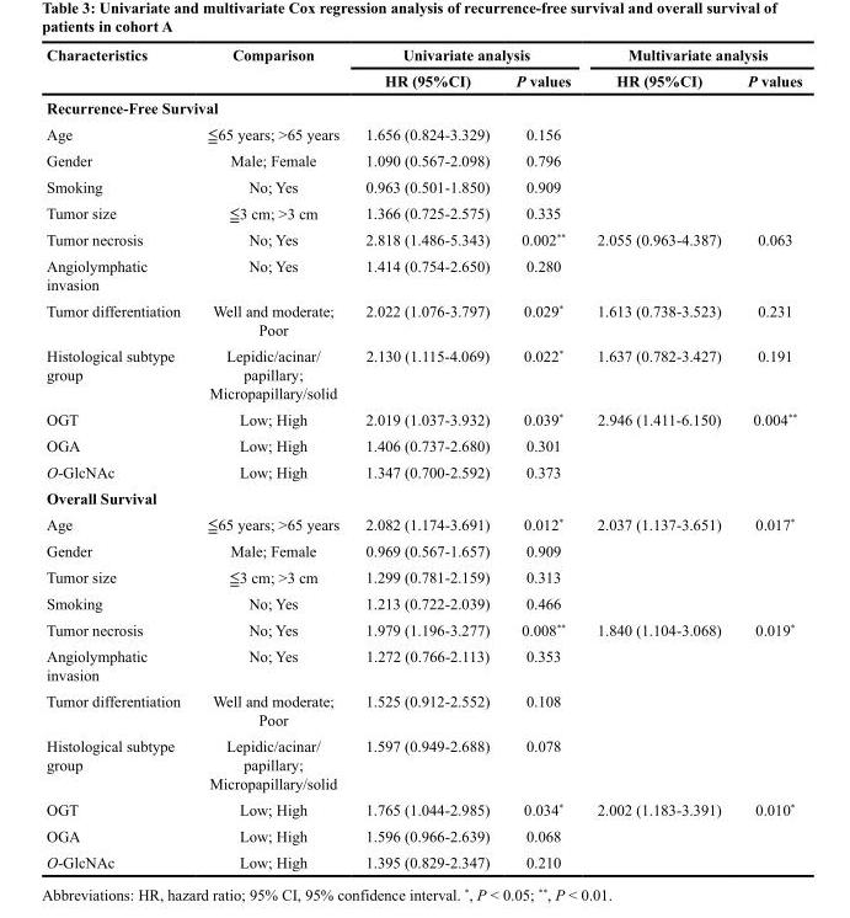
<table><thead><tr><td rowspan="2">Characteristics</td><td rowspan="2">Comparison</td><td colspan="2">Univariate analysis</td><td colspan="2">Multivariate analysis</td></tr><tr><td>HR (95%CI)</td><td>P values</td><td>HR (95%CI)</td><td>P values</td></tr></thead><tbody><tr><td colspan="6">Recurrence-Free Survival</td></tr><tr><td>Age</td><td>≦65 years; &gt;65 years</td><td>1.656 (0.824-3.329)</td><td>0.156</td><td></td><td></td></tr><tr><td>Gender</td><td>Male; Female</td><td>1.090 (0.567-2.098)</td><td>0.796</td><td></td><td></td></tr><tr><td>Smoking</td><td>No; Yes</td><td>0.963 (0.501-1.850)</td><td>0.909</td><td></td><td></td></tr><tr><td>Tumor size</td><td>≦3 cm; &gt;3 cm</td><td>1.366 (0.725-2.575)</td><td>0.335</td><td></td><td></td></tr><tr><td>Tumor necrosis</td><td>No; Yes</td><td>2.818 (1.486-5.343)</td><td>0.002**</td><td>2.055 (0.963-4.387)</td><td>0.063</td></tr><tr><td>Angiolymphatic invasion</td><td>No; Yes</td><td>1.414 (0.754-2.650)</td><td>0.280</td><td></td><td></td></tr><tr><td>Tumor differentiation</td><td>Well and moderate; Poor</td><td>2.022 (1.076-3.797)</td><td>0.029*</td><td>1.613 (0.738-3.523)</td><td>0.231</td></tr><tr><td>Histological subtype group</td><td>Lepidic/acinar/ papillary; Micropapillary/solid</td><td>2.130 (1.115-4.069)</td><td>0.022*</td><td>1.637 (0.782-3.427)</td><td>0.191</td></tr><tr><td>OGT</td><td>Low; High</td><td>2.019 (1.037-3.932)</td><td>0.039*</td><td>2.946 (1.411-6.150)</td><td>0.004**</td></tr><tr><td>OGA</td><td>Low; High</td><td>1.406 (0.737-2.680)</td><td>0.301</td><td></td><td></td></tr><tr><td>O-GlcNAc</td><td>Low; High</td><td>1.347 (0.700-2.592)</td><td>0.373</td><td></td><td></td></tr><tr><td colspan="6">Overall Survival</td></tr><tr><td>Age</td><td>≦65 years; &gt;65 years</td><td>2.082 (1.174-3.691)</td><td>0.012*</td><td>2.037 (1.137-3.651)</td><td>0.017*</td></tr><tr><td>Gender</td><td>Male; Female</td><td>0.969 (0.567-1.657)</td><td>0.909</td><td></td><td></td></tr><tr><td>Tumor size</td><td>≦3 cm; &gt;3 cm</td><td>1.299 (0.781-2.159)</td><td>0.313</td><td></td><td></td></tr><tr><td>Smoking</td><td>No; Yes</td><td>1.213 (0.722-2.039)</td><td>0.466</td><td></td><td></td></tr><tr><td>Tumor necrosis</td><td>No; Yes</td><td>1.979 (1.196-3.277)</td><td>0.008**</td><td>1.840 (1.104-3.068)</td><td>0.019*</td></tr><tr><td>Angiolymphatic invasion</td><td>No; Yes</td><td>1.272 (0.766-2.113)</td><td>0.353</td><td></td><td></td></tr><tr><td>Tumor differentiation</td><td>Well and moderate; Poor</td><td>1.525 (0.912-2.552)</td><td>0.108</td><td></td><td></td></tr><tr><td>Histological subtype group</td><td>Lepidic/acinar/ papillary; Micropapillary/solid</td><td>1.597 (0.949-2.688)</td><td>0.078</td><td></td><td></td></tr><tr><td>OGT</td><td>Low; High</td><td>1.765 (1.044-2.985)</td><td>0.034*</td><td>2.002 (1.183-3.391)</td><td>0.010*</td></tr><tr><td>OGA</td><td>Low; High</td><td>1.596 (0.966-2.639)</td><td>0.068</td><td></td><td></td></tr><tr><td>O-GlcNAc</td><td>Low; High</td><td>1.395 (0.829-2.347)</td><td>0.210</td><td></td><td></td></tr></tbody></table>